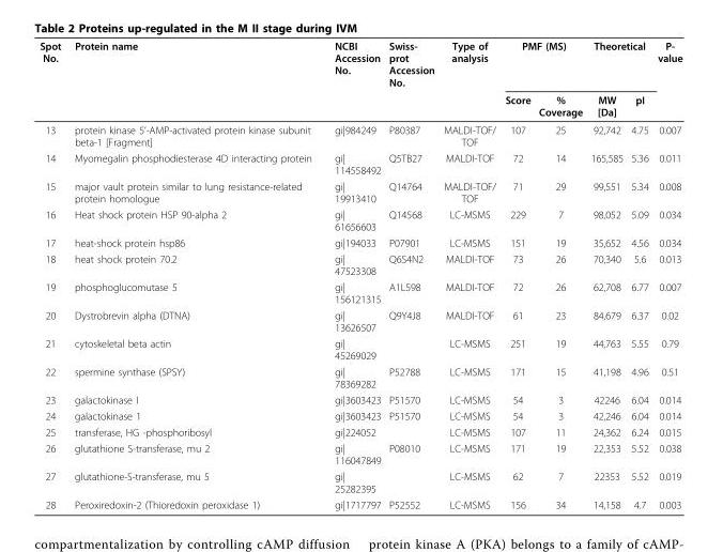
<table><thead><tr><td rowspan="2">Spot No.</td><td rowspan="2">Protein name</td><td rowspan="2">NCBI Accession No.</td><td rowspan="2">Swiss- prot Accession No.</td><td rowspan="2">Type of analysis</td><td colspan="2">PMF (MS)</td><td colspan="2">Theoretical</td><td rowspan="2">P- value</td></tr><tr><td>Score</td><td>% Coverage</td><td>MW [Da]</td><td>pI</td></tr></thead><tbody><tr><td>13</td><td>protein kinase 5’-AMP-activated protein kinase subunit beta-1 [Fragment]</td><td>gi|984249</td><td>P80387</td><td>MALDI-TOF/ TOF</td><td>107</td><td>25</td><td>92,742</td><td>4.75</td><td>0.007</td></tr><tr><td>14</td><td>Myomegalin phosphodiesterase 4D interacting protein</td><td>gi| 114558492</td><td>Q5TB27</td><td>MALDI-TOF</td><td>72</td><td>14</td><td>165,585</td><td>5.36</td><td>0.011</td></tr><tr><td>15</td><td>major vault protein similar to lung resistance-related protein homologue</td><td>gi| 19913410</td><td>Q14764</td><td>MALDI-TOF/ TOF</td><td>71</td><td>29</td><td>99,551</td><td>5.34</td><td>0.008</td></tr><tr><td>16</td><td>Heat shock protein HSP 90-alpha 2</td><td>gi| 61656603</td><td>Q14568</td><td>LC-MSMS</td><td>229</td><td>7</td><td>98,052</td><td>5.09</td><td>0.034</td></tr><tr><td>17</td><td>heat-shock protein hsp86</td><td>gi|194033</td><td>P07901</td><td>LC-MSMS</td><td>151</td><td>19</td><td>35,652</td><td>4.56</td><td>0.034</td></tr><tr><td>18</td><td>heat shock protein 70.2</td><td>gi| 47523308</td><td>Q6S4N2</td><td>MALDI-TOF</td><td>73</td><td>26</td><td>70,340</td><td>5.6</td><td>0.013</td></tr><tr><td>19</td><td>phosphoglucomutase 5</td><td>gi| 156121315</td><td>A1L598</td><td>MALDI-TOF</td><td>72</td><td>26</td><td>62,708</td><td>6.77</td><td>0.007</td></tr><tr><td>20</td><td>Dystrobrevin alpha (DTNA)</td><td>gi| 13626507</td><td>Q9Y4J8</td><td>MALDI-TOF</td><td>61</td><td>23</td><td>84,679</td><td>6.37</td><td>0.02</td></tr><tr><td>21</td><td>cytoskeletal beta actin</td><td>gi| 45269029</td><td></td><td>LC-MSMS</td><td>251</td><td>19</td><td>44,763</td><td>5.55</td><td>0.79</td></tr><tr><td>22</td><td>spermine synthase (SPSY)</td><td>gi| 78369282</td><td>P52788</td><td>LC-MSMS</td><td>171</td><td>15</td><td>41,198</td><td>4.96</td><td>0.51</td></tr><tr><td>23</td><td>galactokinase I</td><td>gi|3603423</td><td>P51570</td><td>LC-MSMS</td><td>54</td><td>3</td><td>42246</td><td>6.04</td><td>0.014</td></tr><tr><td>24</td><td>galactokinase 1</td><td>gi|3603423</td><td>P51570</td><td>LC-MSMS</td><td>54</td><td>3</td><td>42,246</td><td>6.04</td><td>0.014</td></tr><tr><td>25</td><td>transferase, HG -phosphoribosyl</td><td>gi|224052</td><td></td><td>LC-MSMS</td><td>107</td><td>11</td><td>24,362</td><td>6.24</td><td>0.015</td></tr><tr><td>26</td><td>glutathione S-transferase, mu 2</td><td>gi| 116047849</td><td>P08010</td><td>LC-MSMS</td><td>171</td><td>19</td><td>22,353</td><td>5.52</td><td>0.038</td></tr><tr><td>27</td><td>glutathione-S-transferase, mu 5</td><td>gi| 25282395</td><td></td><td>LC-MSMS</td><td>62</td><td>7</td><td>22353</td><td>5.52</td><td>0.019</td></tr><tr><td>28</td><td>Peroxiredoxin-2 (Thioredoxin peroxidase 1)</td><td>gi|1717797</td><td>P52552</td><td>LC-MSMS</td><td>156</td><td>34</td><td>14,158</td><td>4.7</td><td>0.003</td></tr></tbody></table>